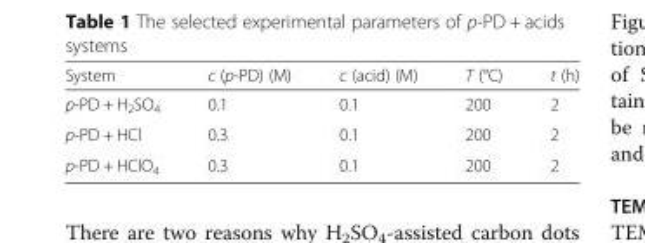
<table><thead><tr><td>System</td><td>c (p-PD) (M)</td><td>c (acid) (M)</td><td>T (°C)</td><td>t (h)</td></tr></thead><tbody><tr><td>p-PD + H<sub>2</sub>SO<sub>4</sub></td><td>0.1</td><td>0.1</td><td>200</td><td>2</td></tr><tr><td>p-PD + HCl</td><td>0.3</td><td>0.1</td><td>200</td><td>2</td></tr><tr><td>p-PD + HClO<sub>4</sub></td><td>0.3</td><td>0.1</td><td>200</td><td>2</td></tr></tbody></table>